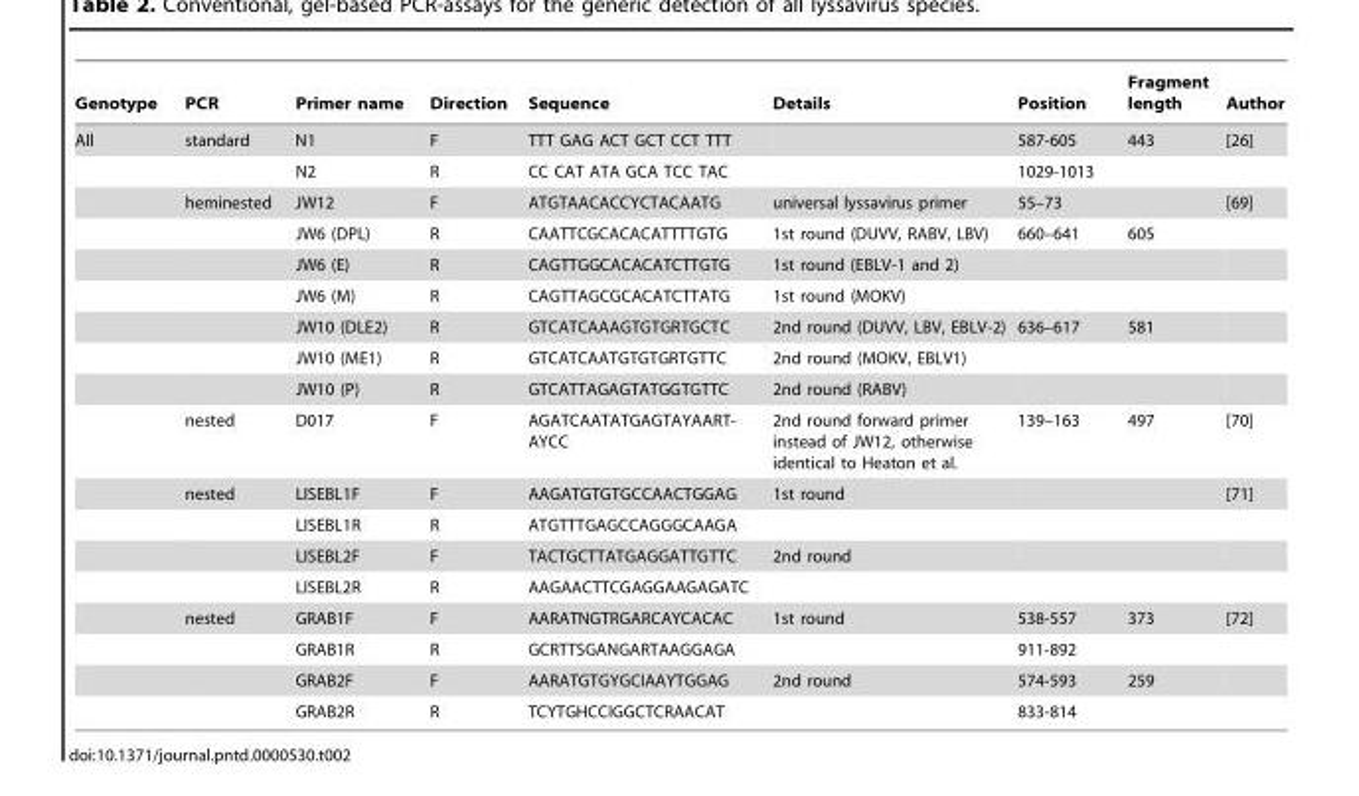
<table><thead><tr><td>Genotype</td><td>PCR</td><td>Primer name</td><td>Direction</td><td>Sequence</td><td>Details</td><td>Position</td><td>Fragment length</td><td>Author</td></tr></thead><tbody><tr><td rowspan="18">All</td><td>standard</td><td>N1</td><td>F</td><td>TTT GAG ACT GCT CCT TTT</td><td></td><td>587-605</td><td>443</td><td>[26]</td></tr><tr><td></td><td>N2</td><td>R</td><td>CC CAT ATA GCA TCC TAC</td><td></td><td>1029-1013</td><td></td><td></td></tr><tr><td>heminested</td><td>JW12</td><td>F</td><td>ATGTAACACCYCTACAATG</td><td>universal lyssavirus primer</td><td>55–73</td><td></td><td>[69]</td></tr><tr><td></td><td>JW6 (DPL)</td><td>R</td><td>CAATTCGCACACATTTTGTG</td><td>1st round (DUVV, RABV, LBV)</td><td>660–641</td><td>605</td><td></td></tr><tr><td></td><td>JW6 (E)</td><td>R</td><td>CAGTTGGCACACATCTTGTG</td><td>1st round (EBLV-1 and 2)</td><td></td><td></td><td></td></tr><tr><td></td><td>JW6 (M)</td><td>R</td><td>CAGTTAGCGCACATCTTATG</td><td>1st round (MOKV)</td><td></td><td></td><td></td></tr><tr><td></td><td>JW10 (DLE2)</td><td>R</td><td>GTCATCAAAGTGTGRTGCTC</td><td>2nd round (DUVV, LBV, EBLV-2)</td><td>636–617</td><td>581</td><td></td></tr><tr><td></td><td>JW10 (ME1)</td><td>R</td><td>GTCATCAATGTGTGRTGTTC</td><td>2nd round (MOKV, EBLV1)</td><td></td><td></td><td></td></tr><tr><td></td><td>JW10 (P)</td><td>R</td><td>GTCATTAGAGTATGGTGTTC</td><td>2nd round (RABV)</td><td></td><td></td><td></td></tr><tr><td>nested</td><td>D017</td><td>F</td><td>AGATCAATATGAGTAYAART- AYCC</td><td>2nd round forward primer instead of JW12, otherwise identical to Heaton et al.</td><td>139–163</td><td>497</td><td>[70]</td></tr><tr><td>nested</td><td>LISEBL1F</td><td>F</td><td>AAGATGTGTGCCAACTGGAG</td><td>1st round</td><td></td><td></td><td>[71]</td></tr><tr><td></td><td>LISEBL1R</td><td>R</td><td>ATGTTTGAGCCAGGGCAAGA</td><td></td><td></td><td></td><td></td></tr><tr><td></td><td>LISEBL2F</td><td>F</td><td>TACTGCTTATGAGGATTGTTC</td><td>2nd round</td><td></td><td></td><td></td></tr><tr><td></td><td>LISEBL2R</td><td>R</td><td>AAGAACTTCGAGGAAGAGATC</td><td></td><td></td><td></td><td></td></tr><tr><td>nested</td><td>GRAB1F</td><td>F</td><td>AARATNGTRGARCAYCACAC</td><td>1st round</td><td>538-557</td><td>373</td><td>[72]</td></tr><tr><td></td><td>GRAB1R</td><td>R</td><td>GCRTTSGANGARTAAGGAGA</td><td></td><td>911-892</td><td></td><td></td></tr><tr><td></td><td>GRAB2F</td><td>F</td><td>AARATGTGYGCIAAYTGGAG</td><td>2nd round</td><td>574-593</td><td>259</td><td></td></tr><tr><td></td><td>GRAB2R</td><td>R</td><td>TCYTGHCCIGGCTCRAACAT</td><td></td><td>833-814</td><td></td><td></td></tr></tbody></table>